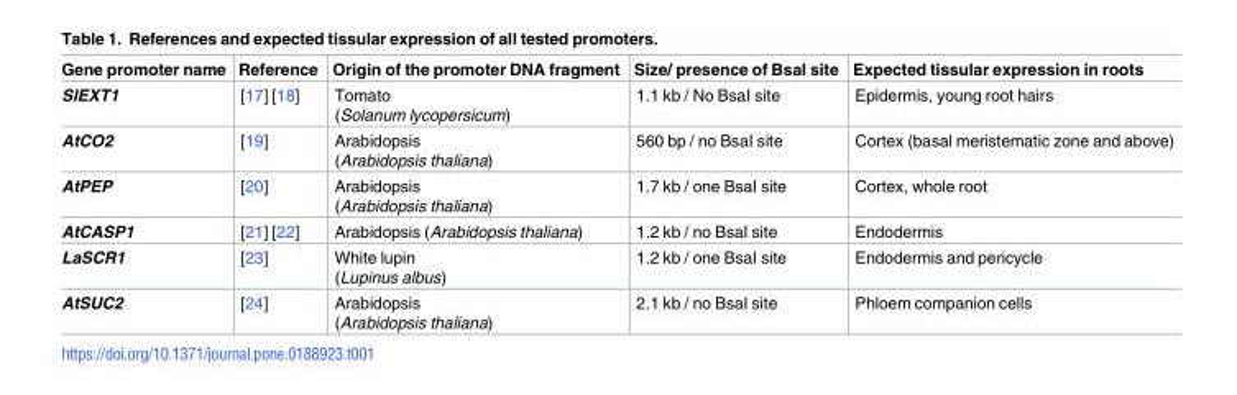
<table><thead><tr><td>Gene promoter name</td><td>Reference</td><td>Origin of the promoter DNA fragment</td><td>Size/ presence of BsaI site</td><td>Expected tissular expression in roots</td></tr></thead><tbody><tr><td>SlEXT1</td><td>[17] [18]</td><td>Tomato (Solanum lycopersicum)</td><td>1.1 kb / No BsaI site</td><td>Epidermis, young root hairs</td></tr><tr><td>AtCO2</td><td>[19]</td><td>Arabidopsis (Arabidopsis thaliana)</td><td>560 bp / no BsaI site</td><td>Cortex (basal meristematic zone and above)</td></tr><tr><td>AtPEP</td><td>[20]</td><td>Arabidopsis (Arabidopsis thaliana)</td><td>1.7 kb / one BsaI site</td><td>Cortex, whole root</td></tr><tr><td>AtCASP1</td><td>[21] [22]</td><td>Arabidopsis (Arabidopsis thaliana)</td><td>1.2 kb / no BsaI site</td><td>Endodermis</td></tr><tr><td>LaSCR1</td><td>[23]</td><td>White lupin (Lupinus albus)</td><td>1.2 kb / one BsaI site</td><td>Endodermis and pericycle</td></tr><tr><td>AtSUC2</td><td>[24]</td><td>Arabidopsis (Arabidopsis thaliana)</td><td>2.1 kb / no BsaI site</td><td>Phloem companion cells</td></tr></tbody></table>